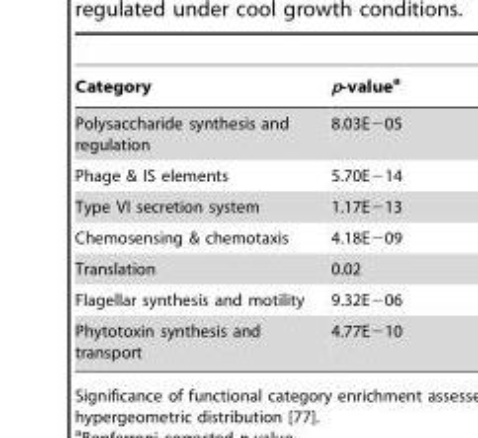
<table><thead><tr><td>Category</td><td>p-value<sup>a</sup></td></tr></thead><tbody><tr><td>Polysaccharide synthesis and regulation</td><td>8.03E−05</td></tr><tr><td>Phage &amp; IS elements</td><td>5.70E−14</td></tr><tr><td>Type VI secretion system</td><td>1.17E−13</td></tr><tr><td>Chemosensing &amp; chemotaxis</td><td>4.18E−09</td></tr><tr><td>Translation</td><td>0.02</td></tr><tr><td>Flagellar synthesis and motility</td><td>9.32E−06</td></tr><tr><td>Phytotoxin synthesis and transport</td><td>4.77E−10</td></tr></tbody></table>